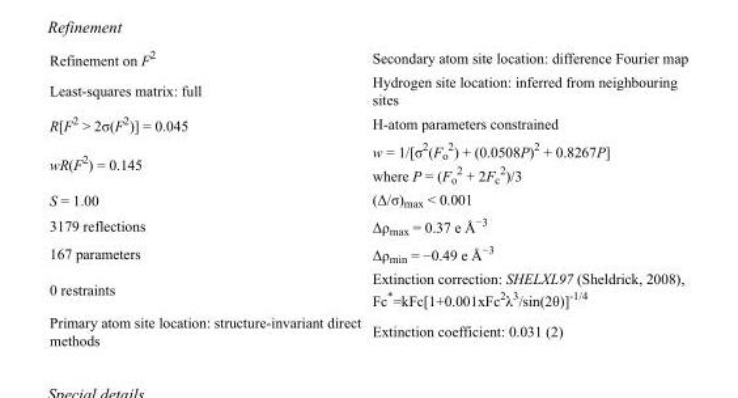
<table><tbody><tr><td>Refinement on F<sup>2</sup></td><td>Secondary atom site location: difference Fourier map</td></tr><tr><td>Least-squares matrix: full</td><td>Hydrogen site location: inferred from neighbouring sites</td></tr><tr><td>R[F<sup>2</sup> &gt; 2σ(F<sup>2</sup>)] = 0.045</td><td>H-atom parameters constrained</td></tr><tr><td>wR(F<sup>2</sup>) = 0.145</td><td>w = 1/[σ<sup>2</sup>(F<sub>o</sub> <sup>2</sup>) + (0.0508P)<sup>2</sup> + 0.8267P] where P = (F<sub>o</sub> <sup>2</sup> + 2F<sub>c</sub> <sup>2</sup>)/3</td></tr><tr><td>S = 1.00</td><td>(Δ/σ)<sub>max</sub> &lt; 0.001</td></tr><tr><td>3179 reflections</td><td>Δρ<sub>max</sub> = 0.37 e Å<sup>−3</sup></td></tr><tr><td>167 parameters</td><td>Δρ<sub>min</sub> = −0.49 e Å<sup>−3</sup></td></tr><tr><td>0 restraints</td><td>Extinction correction: SHELXL97 (Sheldrick, 2008), Fc*=kFc[1+0.001xFc<sup>2</sup>λ<sup>3</sup>/sin(2θ)]<sup>-1/4</sup></td></tr><tr><td>Primary atom site location: structure-invariant direct methods</td><td>Extinction coefficient: 0.031 (2)</td></tr></tbody></table>